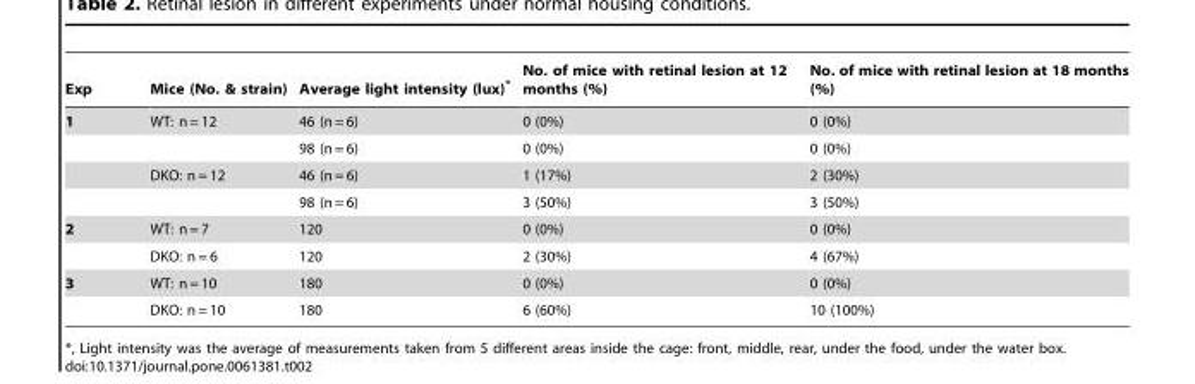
<table><thead><tr><td>Exp</td><td>Mice (No. &amp; strain)</td><td>Average light intensity (lux)*</td><td>No. of mice with retinal lesion at 12 months (%)</td><td>No. of mice with retinal lesion at 18 months (%)</td></tr></thead><tbody><tr><td rowspan="4">1</td><td>WT: n = 12</td><td>46 (n = 6)</td><td>0 (0%)</td><td>0 (0%)</td></tr><tr><td></td><td>98 (n = 6)</td><td>0 (0%)</td><td>0 (0%)</td></tr><tr><td>DKO: n = 12</td><td>46 (n = 6)</td><td>1 (17%)</td><td>2 (30%)</td></tr><tr><td></td><td>98 (n = 6)</td><td>3 (50%)</td><td>3 (50%)</td></tr><tr><td rowspan="2">2</td><td>WT: n = 7</td><td>120</td><td>0 (0%)</td><td>0 (0%)</td></tr><tr><td>DKO: n = 6</td><td>120</td><td>2 (30%)</td><td>4 (67%)</td></tr><tr><td rowspan="2">3</td><td>WT: n = 10</td><td>180</td><td>0 (0%)</td><td>0 (0%)</td></tr><tr><td>DKO: n = 10</td><td>180</td><td>6 (60%)</td><td>10 (100%)</td></tr></tbody></table>